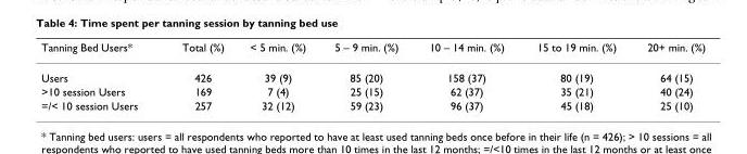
<table><thead><tr><td>Tanning Bed Users*</td><td>Total (%)</td><td>&lt; 5 min. (%)</td><td>5 – 9 min. (%)</td><td>10 – 14 min. (%)</td><td>15 to 19 min. (%)</td><td>20+ min. (%)</td></tr></thead><tbody><tr><td>Users</td><td>426</td><td>39 (9)</td><td>85 (20)</td><td>158 (37)</td><td>80 (19)</td><td>64 (15)</td></tr><tr><td>&gt;10 session Users</td><td>169</td><td>7 (4)</td><td>25 (15)</td><td>62 (37)</td><td>35 (21)</td><td>40 (24)</td></tr><tr><td>=/&lt; 10 session Users</td><td>257</td><td>32 (12)</td><td>59 (23)</td><td>96 (37)</td><td>45 (18)</td><td>25 (10)</td></tr></tbody></table>